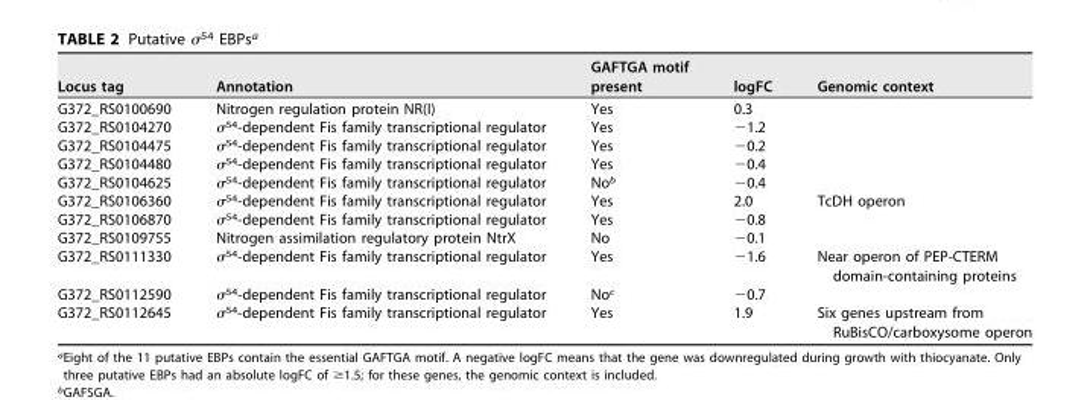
<table><thead><tr><td>Locus tag</td><td>Annotation</td><td>GAFTGA motif present</td><td>logFC</td><td>Genomic context</td></tr></thead><tbody><tr><td>G372_RS0100690</td><td>Nitrogen regulation protein NR(I)</td><td>Yes</td><td>0.3</td><td></td></tr><tr><td>G372_RS0104270</td><td>σ<sup>54</sup>-dependent Fis family transcriptional regulator</td><td>Yes</td><td>−1.2</td><td></td></tr><tr><td>G372_RS0104475</td><td>σ<sup>54</sup>-dependent Fis family transcriptional regulator</td><td>Yes</td><td>−0.2</td><td></td></tr><tr><td>G372_RS0104480</td><td>σ<sup>54</sup>-dependent Fis family transcriptional regulator</td><td>Yes</td><td>−0.4</td><td></td></tr><tr><td>G372_RS0104625</td><td>σ<sup>54</sup>-dependent Fis family transcriptional regulator</td><td>No<sup>b</sup></td><td>−0.4</td><td></td></tr><tr><td>G372_RS0106360</td><td>σ<sup>54</sup>-dependent Fis family transcriptional regulator</td><td>Yes</td><td>2.0</td><td>TcDH operon</td></tr><tr><td>G372_RS0106870</td><td>σ<sup>54</sup>-dependent Fis family transcriptional regulator</td><td>Yes</td><td>−0.8</td><td></td></tr><tr><td>G372_RS0109755</td><td>Nitrogen assimilation regulatory protein NtrX</td><td>No</td><td>−0.1</td><td></td></tr><tr><td>G372_RS0111330</td><td>σ<sup>54</sup>-dependent Fis family transcriptional regulator</td><td>Yes</td><td>−1.6</td><td>Near operon of PEP-CTERM domain-containing proteins</td></tr><tr><td>G372_RS0112590</td><td>σ<sup>54</sup>-dependent Fis family transcriptional regulator</td><td>No<sup>c</sup></td><td>−0.7</td><td></td></tr><tr><td>G372_RS0112645</td><td>σ<sup>54</sup>-dependent Fis family transcriptional regulator</td><td>Yes</td><td>1.9</td><td>Six genes upstream from RuBisCO/carboxysome operon</td></tr></tbody></table>